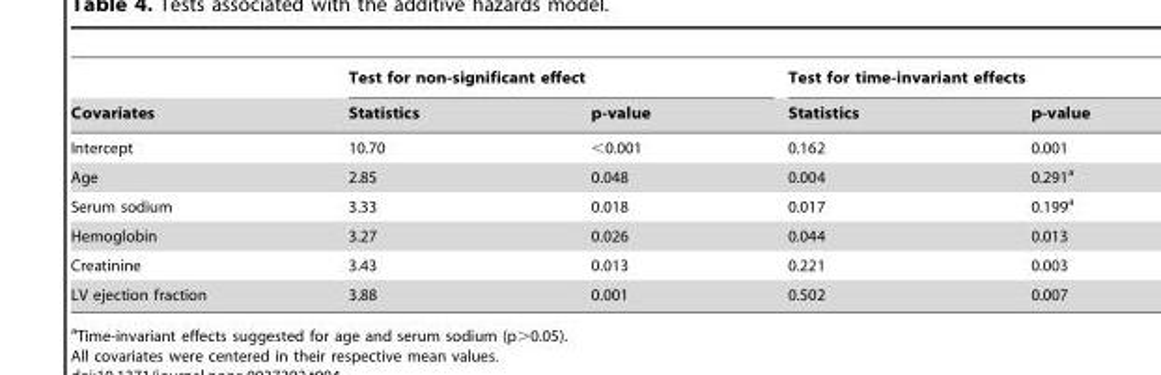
<table><thead><tr><td rowspan="2">Covariates</td><td colspan="2">Test for non-significant effect</td><td colspan="2">Test for time-invariant effects</td></tr><tr><td>Statistics</td><td>p-value</td><td>Statistics</td><td>p-value</td></tr></thead><tbody><tr><td>Intercept</td><td>10.70</td><td>&lt;0.001</td><td>0.162</td><td>0.001</td></tr><tr><td>Age</td><td>2.85</td><td>0.048</td><td>0.004</td><td>0.291<sup>a</sup></td></tr><tr><td>Serum sodium</td><td>3.33</td><td>0.018</td><td>0.017</td><td>0.199<sup>a</sup></td></tr><tr><td>Hemoglobin</td><td>3.27</td><td>0.026</td><td>0.044</td><td>0.013</td></tr><tr><td>Creatinine</td><td>3.43</td><td>0.013</td><td>0.221</td><td>0.003</td></tr><tr><td>LV ejection fraction</td><td>3.88</td><td>0.001</td><td>0.502</td><td>0.007</td></tr></tbody></table>